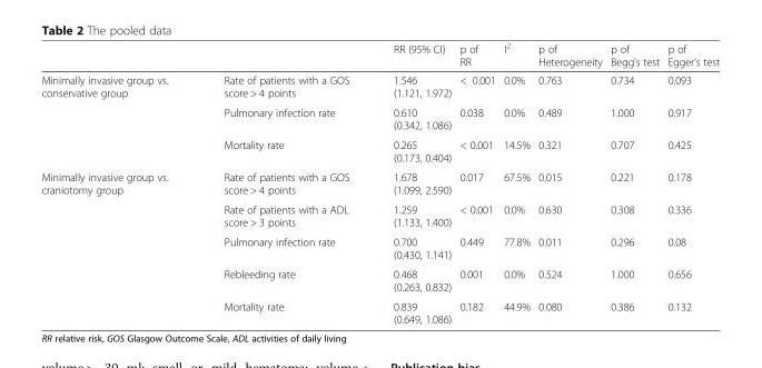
<table><thead><tr><td></td><td></td><td>RR (95% CI)</td><td>p of RR</td><td>I<sup>2</sup></td><td>p of Heterogeneity</td><td>p of Begg’s test</td><td>p of Egger’s test</td></tr></thead><tbody><tr><td rowspan="3">Minimally invasive group vs. conservative group</td><td>Rate of patients with a GOS score &gt; 4 points</td><td>1.546 (1.121, 1.972)</td><td>&lt; 0.001</td><td>0.0%</td><td>0.763</td><td>0.734</td><td>0.093</td></tr><tr><td>Pulmonary infection rate</td><td>0.610 (0.342, 1.086)</td><td>0.038</td><td>0.0%</td><td>0.489</td><td>1.000</td><td>0.917</td></tr><tr><td>Mortality rate</td><td>0.265 (0.173, 0.404)</td><td>&lt; 0.001</td><td>14.5%</td><td>0.321</td><td>0.707</td><td>0.425</td></tr><tr><td rowspan="5">Minimally invasive group vs. craniotomy group</td><td>Rate of patients with a GOS score &gt; 4 points</td><td>1.678 (1.099, 2.590)</td><td>0.017</td><td>67.5%</td><td>0.015</td><td>0.221</td><td>0.178</td></tr><tr><td>Rate of patients with a ADL score &gt; 3 points</td><td>1.259 (1.133, 1.400)</td><td>&lt; 0.001</td><td>0.0%</td><td>0.630</td><td>0.308</td><td>0.336</td></tr><tr><td>Pulmonary infection rate</td><td>0.700 (0.430, 1.141)</td><td>0.449</td><td>77.8%</td><td>0.011</td><td>0.296</td><td>0.08</td></tr><tr><td>Rebleeding rate</td><td>0.468 (0.263, 0.832)</td><td>0.001</td><td>0.0%</td><td>0.524</td><td>1.000</td><td>0.656</td></tr><tr><td>Mortality rate</td><td>0.839 (0.649, 1.086)</td><td>0.182</td><td>44.9%</td><td>0.080</td><td>0.386</td><td>0.132</td></tr></tbody></table>